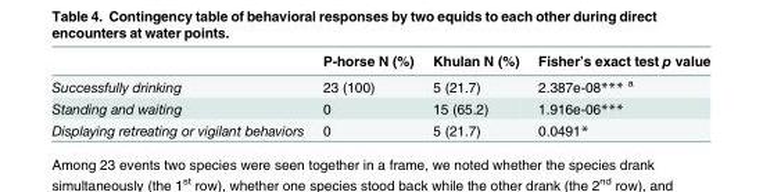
<table><thead><tr><td></td><td>P-horse N (%)</td><td>Khulan N (%)</td><td>Fisher’s exact test p value</td></tr></thead><tbody><tr><td>Successfully drinking</td><td>23 (100)</td><td>5 (21.7)</td><td>2.387e-08*** <sup>a</sup></td></tr><tr><td>Standing and waiting</td><td>0</td><td>15 (65.2)</td><td>1.916e-06***</td></tr><tr><td>Displaying retreating or vigilant behaviors</td><td>0</td><td>5 (21.7)</td><td>0.0491*</td></tr></tbody></table>